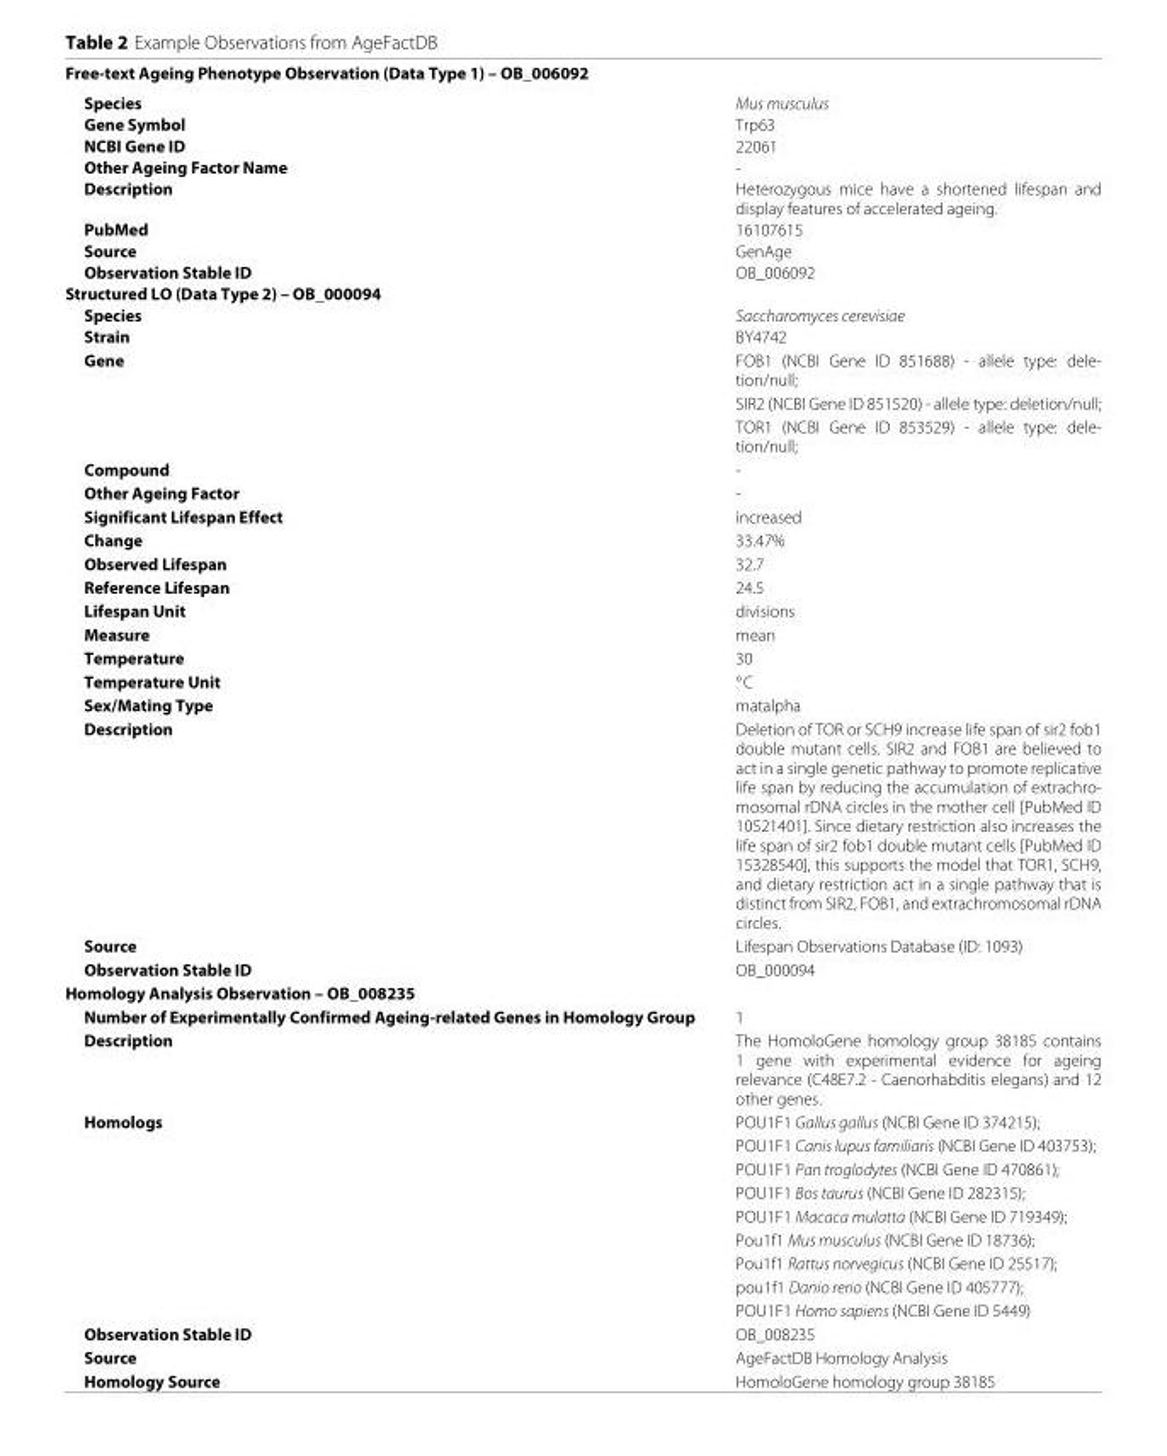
<table><tbody><tr><td colspan="2">Free-text Ageing Phenotype Observation (Data Type 1) – OB_006092</td></tr><tr><td>Species</td><td>Mus musculus</td></tr><tr><td>Gene Symbol</td><td>Trp63</td></tr><tr><td>NCBI Gene ID</td><td>22061</td></tr><tr><td>Other Ageing Factor Name</td><td>-</td></tr><tr><td>Description</td><td>Heterozygous mice have a shortened lifespan and display features of accelerated ageing.</td></tr><tr><td>PubMed</td><td>16107615</td></tr><tr><td>Source</td><td>GenAge</td></tr><tr><td>Observation Stable ID</td><td>OB_006092</td></tr><tr><td colspan="2">Structured LO (Data Type 2) – OB_000094</td></tr><tr><td>Species</td><td>Saccharomyces cerevisiae</td></tr><tr><td>Strain</td><td>BY4742</td></tr><tr><td rowspan="3">Gene</td><td>FOB1 (NCBI Gene ID 851688) - allele type: dele- tion/null;</td></tr><tr><td>SIR2 (NCBI Gene ID 851520) - allele type: deletion/null;</td></tr><tr><td>TOR1 (NCBI Gene ID 853529) - allele type: dele- tion/null;</td></tr><tr><td>Compound</td><td>-</td></tr><tr><td>Other Ageing Factor</td><td>-</td></tr><tr><td>Significant Lifespan Effect</td><td>increased</td></tr><tr><td>Change</td><td>33.47%</td></tr><tr><td>Observed Lifespan</td><td>32.7</td></tr><tr><td>Reference Lifespan</td><td>24.5</td></tr><tr><td>Lifespan Unit</td><td>divisions</td></tr><tr><td>Measure</td><td>mean</td></tr><tr><td>Temperature</td><td>30</td></tr><tr><td>Temperature Unit</td><td>◦C</td></tr><tr><td>Sex/Mating Type</td><td>matalpha</td></tr><tr><td>Description</td><td>Deletion of TOR or SCH9 increase life span of sir2 fob1 double mutant cells. SIR2 and FOB1 are believed to act in a single genetic pathway to promote replicative life span by reducing the accumulation of extrachro- mosomal rDNA circles in the mother cell [PubMed ID 10521401]. Since dietary restriction also increases the life span of sir2 fob1 double mutant cells [PubMed ID 15328540], this supports the model that TOR1, SCH9, and dietary restriction act in a single pathway that is distinct from SIR2, FOB1, and extrachromosomal rDNA circles.</td></tr><tr><td>Source</td><td>Lifespan Observations Database (ID: 1093)</td></tr><tr><td>Observation Stable ID</td><td>OB_000094</td></tr><tr><td colspan="2">Homology Analysis Observation – OB_008235</td></tr><tr><td>Number of Experimentally Confirmed Ageing-related Genes in Homology Group</td><td>1</td></tr><tr><td>Description</td><td>The HomoloGene homology group 38185 contains 1 gene with experimental evidence for ageing relevance (C48E7.2 - Caenorhabditis elegans) and 12 other genes.</td></tr><tr><td rowspan="9">Homologs</td><td>POU1F1 Gallus gallus (NCBI Gene ID 374215);</td></tr><tr><td>POU1F1 Canis lupus familiaris (NCBI Gene ID 403753);</td></tr><tr><td>POU1F1 Pan troglodytes (NCBI Gene ID 470861);</td></tr><tr><td>POU1F1 Bos taurus (NCBI Gene ID 282315);</td></tr><tr><td>POU1F1 Macaca mulatta (NCBI Gene ID 719349);</td></tr><tr><td>Pou1f1 Mus musculus (NCBI Gene ID 18736);</td></tr><tr><td>Pou1f1 Rattus norvegicus (NCBI Gene ID 25517);</td></tr><tr><td>pou1f1 Danio rerio (NCBI Gene ID 405777);</td></tr><tr><td>POU1F1 Homo sapiens (NCBI Gene ID 5449)</td></tr><tr><td>Observation Stable ID</td><td>OB_008235</td></tr><tr><td>Source</td><td>AgeFactDB Homology Analysis</td></tr><tr><td>Homology Source</td><td>HomoloGene homology group 38185</td></tr></tbody></table>